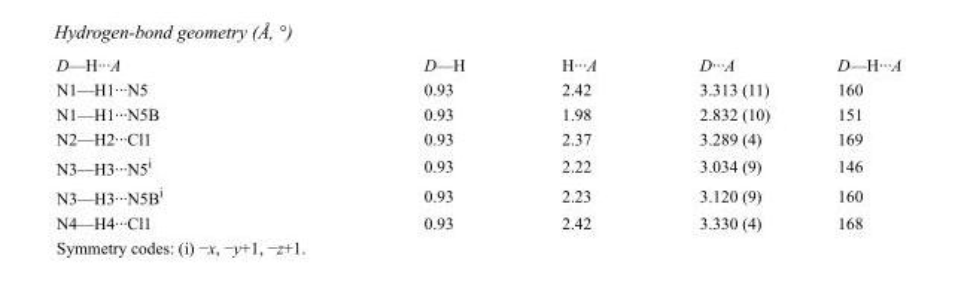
<table><tbody><tr><td>D—H···A</td><td>D—H</td><td>H···A</td><td>D···A</td><td>D—H···A</td></tr><tr><td>N1—H1···N5</td><td>0.93</td><td>2.42</td><td>3.313 (11)</td><td>160</td></tr><tr><td>N1—H1···N5B</td><td>0.93</td><td>1.98</td><td>2.832 (10)</td><td>151</td></tr><tr><td>N2—H2···Cl1</td><td>0.93</td><td>2.37</td><td>3.289 (4)</td><td>169</td></tr><tr><td>N3—H3···N5<sup>i</sup></td><td>0.93</td><td>2.22</td><td>3.034 (9)</td><td>146</td></tr><tr><td>N3—H3···N5B<sup>i</sup></td><td>0.93</td><td>2.23</td><td>3.120 (9)</td><td>160</td></tr><tr><td>N4—H4···Cl1</td><td>0.93</td><td>2.42</td><td>3.330 (4)</td><td>168</td></tr></tbody></table>